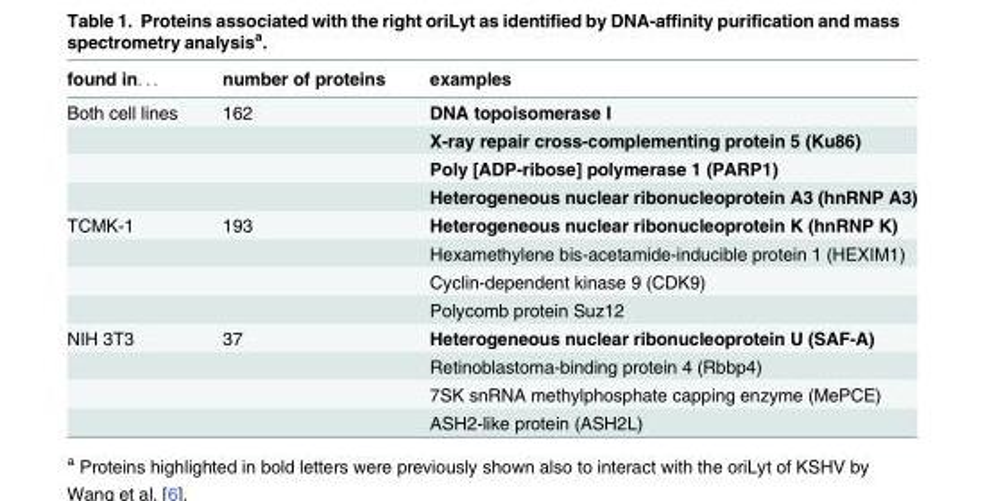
<table><thead><tr><td>found in. . .</td><td>number of proteins</td><td>examples</td></tr></thead><tbody><tr><td rowspan="4">Both cell lines</td><td>162</td><td>DNA topoisomerase I</td></tr><tr><td></td><td>X-ray repair cross-complementing protein 5 (Ku86)</td></tr><tr><td></td><td>Poly [ADP-ribose] polymerase 1 (PARP1)</td></tr><tr><td></td><td>Heterogeneous nuclear ribonucleoprotein A3 (hnRNP A3)</td></tr><tr><td rowspan="4">TCMK-1</td><td>193</td><td>Heterogeneous nuclear ribonucleoprotein K (hnRNP K)</td></tr><tr><td></td><td>Hexamethylene bis-acetamide-inducible protein 1 (HEXIM1)</td></tr><tr><td></td><td>Cyclin-dependent kinase 9 (CDK9)</td></tr><tr><td></td><td>Polycomb protein Suz12</td></tr><tr><td rowspan="4">NIH 3T3</td><td>37</td><td>Heterogeneous nuclear ribonucleoprotein U (SAF-A)</td></tr><tr><td></td><td>Retinoblastoma-binding protein 4 (Rbbp4)</td></tr><tr><td></td><td>7SK snRNA methylphosphate capping enzyme (MePCE)</td></tr><tr><td></td><td>ASH2-like protein (ASH2L)</td></tr></tbody></table>